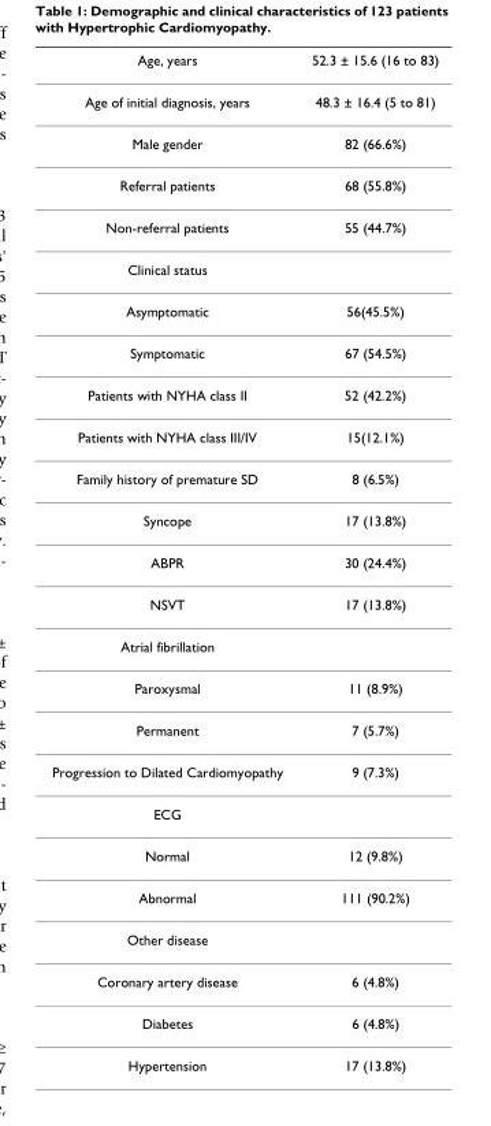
<table><thead><tr><td>Age, years</td><td>52.3 ± 15.6 (16 to 83)</td></tr></thead><tbody><tr><td>Age of initial diagnosis, years</td><td>48.3 ± 16.4 (5 to 81)</td></tr><tr><td>Male gender</td><td>82 (66.6%)</td></tr><tr><td>Referral patients</td><td>68 (55.8%)</td></tr><tr><td>Non-referral patients</td><td>55 (44.7%)</td></tr><tr><td colspan="2">Clinical status</td></tr><tr><td>Asymptomatic</td><td>56(45.5%)</td></tr><tr><td>Symptomatic</td><td>67 (54.5%)</td></tr><tr><td>Patients with NYHA class II</td><td>52 (42.2%)</td></tr><tr><td>Patients with NYHA class III/IV</td><td>15(12.1%)</td></tr><tr><td>Family history of premature SD</td><td>8 (6.5%)</td></tr><tr><td>Syncope</td><td>17 (13.8%)</td></tr><tr><td>ABPR</td><td>30 (24.4%)</td></tr><tr><td>NSVT</td><td>17 (13.8%)</td></tr><tr><td colspan="2">Atrial fibrillation</td></tr><tr><td>Paroxysmal</td><td>11 (8.9%)</td></tr><tr><td>Permanent</td><td>7 (5.7%)</td></tr><tr><td>Progression to Dilated Cardiomyopathy</td><td>9 (7.3%)</td></tr><tr><td colspan="2">ECG</td></tr><tr><td>Normal</td><td>12 (9.8%)</td></tr><tr><td>Abnormal</td><td>111 (90.2%)</td></tr><tr><td colspan="2">Other disease</td></tr><tr><td>Coronary artery disease</td><td>6 (4.8%)</td></tr><tr><td>Diabetes</td><td>6 (4.8%)</td></tr><tr><td>Hypertension</td><td>17 (13.8%)</td></tr></tbody></table>